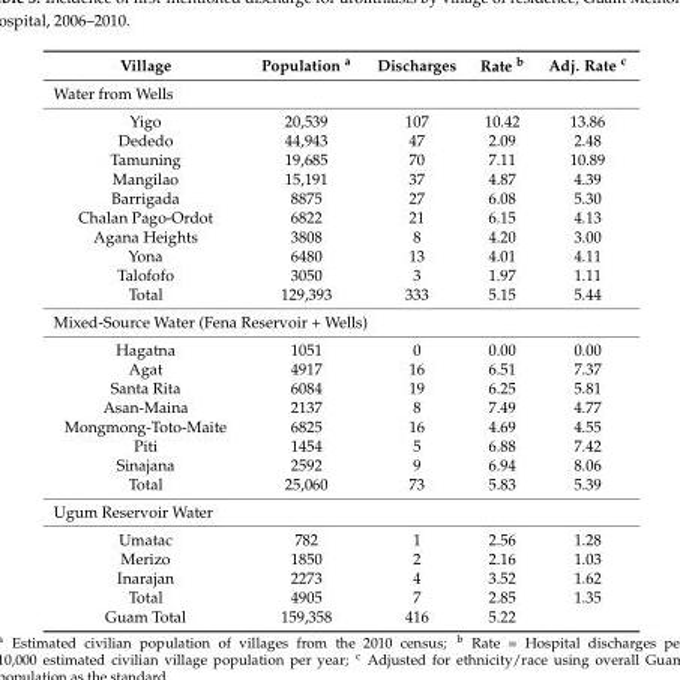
<table><thead><tr><td>Village</td><td>Population <sup>a</sup></td><td>Discharges</td><td>Rate <sup>b</sup></td><td>Adj. Rate <sup>c</sup></td></tr></thead><tbody><tr><td colspan="5">Water from Wells</td></tr><tr><td>Yigo</td><td>20,539</td><td>107</td><td>10.42</td><td>13.86</td></tr><tr><td>Dededo</td><td>44,943</td><td>47</td><td>2.09</td><td>2.48</td></tr><tr><td>Tamuning</td><td>19,685</td><td>70</td><td>7.11</td><td>10.89</td></tr><tr><td>Mangilao</td><td>15,191</td><td>37</td><td>4.87</td><td>4.39</td></tr><tr><td>Barrigada</td><td>8875</td><td>27</td><td>6.08</td><td>5.30</td></tr><tr><td>Chalan Pago-Ordot</td><td>6822</td><td>21</td><td>6.15</td><td>4.13</td></tr><tr><td>Agana Heights</td><td>3808</td><td>8</td><td>4.20</td><td>3.00</td></tr><tr><td>Yona</td><td>6480</td><td>13</td><td>4.01</td><td>4.11</td></tr><tr><td>Talofofo</td><td>3050</td><td>3</td><td>1.97</td><td>1.11</td></tr><tr><td>Total</td><td>129,393</td><td>333</td><td>5.15</td><td>5.44</td></tr><tr><td colspan="5">Mixed-Source Water (Fena Reservoir + Wells)</td></tr><tr><td>Hagatna</td><td>1051</td><td>0</td><td>0.00</td><td>0.00</td></tr><tr><td>Agat</td><td>4917</td><td>16</td><td>6.51</td><td>7.37</td></tr><tr><td>Santa Rita</td><td>6084</td><td>19</td><td>6.25</td><td>5.81</td></tr><tr><td>Asan-Maina</td><td>2137</td><td>8</td><td>7.49</td><td>4.77</td></tr><tr><td>Mongmong-Toto-Maite</td><td>6825</td><td>16</td><td>4.69</td><td>4.55</td></tr><tr><td>Piti</td><td>1454</td><td>5</td><td>6.88</td><td>7.42</td></tr><tr><td>Sinajana</td><td>2592</td><td>9</td><td>6.94</td><td>8.06</td></tr><tr><td>Total</td><td>25,060</td><td>73</td><td>5.83</td><td>5.39</td></tr><tr><td colspan="5">Ugum Reservoir Water</td></tr><tr><td>Umatac</td><td>782</td><td>1</td><td>2.56</td><td>1.28</td></tr><tr><td>Merizo</td><td>1850</td><td>2</td><td>2.16</td><td>1.03</td></tr><tr><td>Inarajan</td><td>2273</td><td>4</td><td>3.52</td><td>1.62</td></tr><tr><td>Total</td><td>4905</td><td>7</td><td>2.85</td><td>1.35</td></tr><tr><td>Guam Total</td><td>159,358</td><td>416</td><td>5.22</td><td></td></tr></tbody></table>